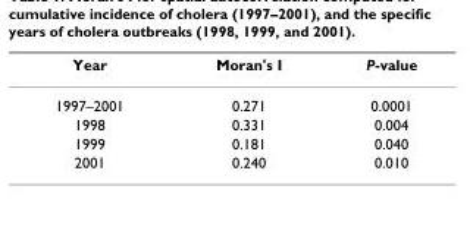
<table><thead><tr><td>Year</td><td>Moran&#x27;s I</td><td>P-value</td></tr></thead><tbody><tr><td>1997–2001</td><td>0.271</td><td>0.0001</td></tr><tr><td>1998</td><td>0.331</td><td>0.004</td></tr><tr><td>1999</td><td>0.181</td><td>0.040</td></tr><tr><td>2001</td><td>0.240</td><td>0.010</td></tr></tbody></table>